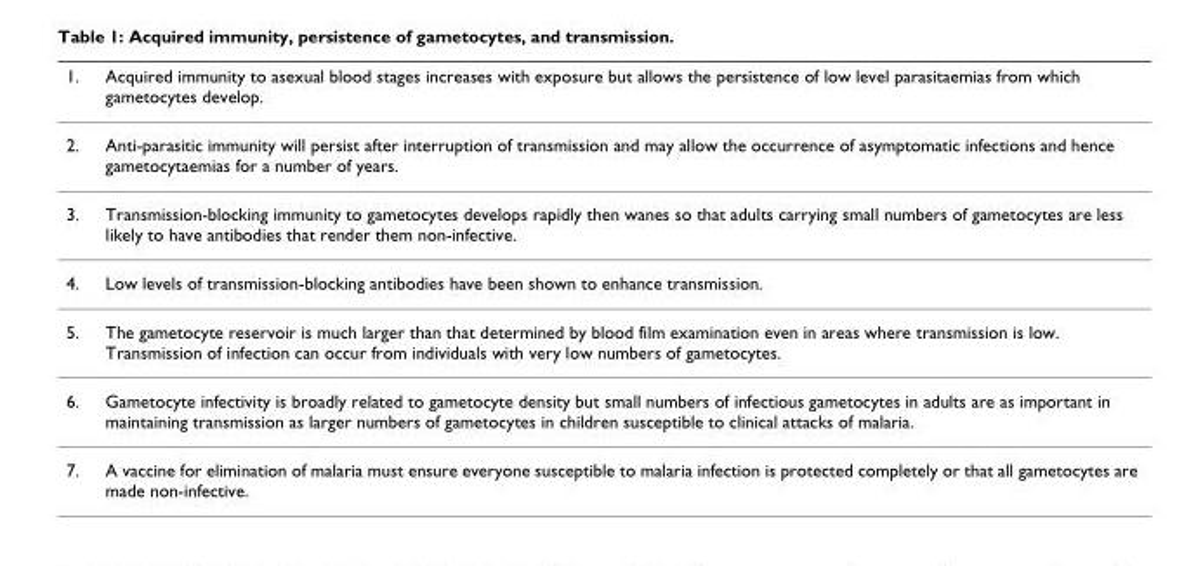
<table><thead><tr><td>1.</td><td>Acquired immunity to asexual blood stages increases with exposure but allows the persistence of low level parasitaemias from which gametocytes develop.</td></tr></thead><tbody><tr><td>2.</td><td>Anti-parasitic immunity will persist after interruption of transmission and may allow the occurrence of asymptomatic infections and hence gametocytaemias for a number of years.</td></tr><tr><td>3.</td><td>Transmission-blocking immunity to gametocytes develops rapidly then wanes so that adults carrying small numbers of gametocytes are less likely to have antibodies that render them non-infective.</td></tr><tr><td>4.</td><td>Low levels of transmission-blocking antibodies have been shown to enhance transmission.</td></tr><tr><td>5.</td><td>The gametocyte reservoir is much larger than that determined by blood film examination even in areas where transmission is low. Transmission of infection can occur from individuals with very low numbers of gametocytes.</td></tr><tr><td>6.</td><td>Gametocyte infectivity is broadly related to gametocyte density but small numbers of infectious gametocytes in adults are as important in maintaining transmission as larger numbers of gametocytes in children susceptible to clinical attacks of malaria.</td></tr><tr><td>7.</td><td>A vaccine for elimination of malaria must ensure everyone susceptible to malaria infection is protected completely or that all gametocytes are made non-infective.</td></tr></tbody></table>